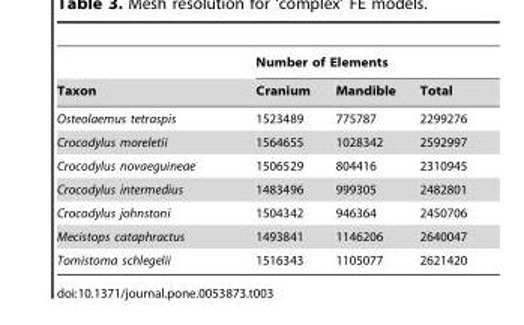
<table><thead><tr><td rowspan="2">Taxon</td><td colspan="3">Number of Elements</td></tr><tr><td>Cranium</td><td>Mandible</td><td>Total</td></tr></thead><tbody><tr><td>Osteolaemus tetraspis</td><td>1523489</td><td>775787</td><td>2299276</td></tr><tr><td>Crocodylus moreletii</td><td>1564655</td><td>1028342</td><td>2592997</td></tr><tr><td>Crocodylus novaeguineae</td><td>1506529</td><td>804416</td><td>2310945</td></tr><tr><td>Crocodylus intermedius</td><td>1483496</td><td>999305</td><td>2482801</td></tr><tr><td>Crocodylus johnstoni</td><td>1504342</td><td>946364</td><td>2450706</td></tr><tr><td>Mecistops cataphractus</td><td>1493841</td><td>1146206</td><td>2640047</td></tr><tr><td>Tomistoma schlegelii</td><td>1516343</td><td>1105077</td><td>2621420</td></tr></tbody></table>